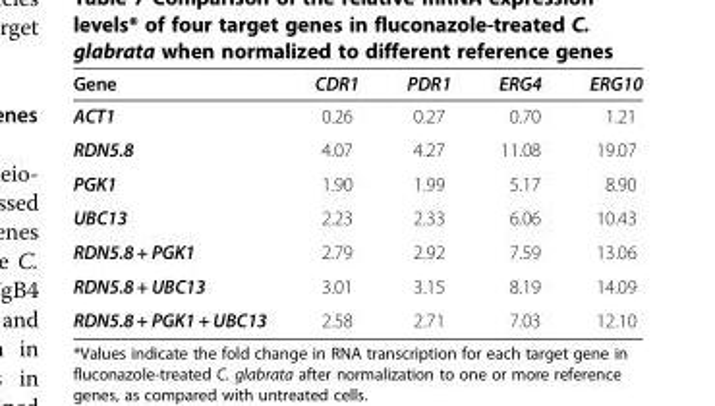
<table><thead><tr><td>Gene</td><td>CDR1</td><td>PDR1</td><td>ERG4</td><td>ERG10</td></tr></thead><tbody><tr><td>ACT1</td><td>0.26</td><td>0.27</td><td>0.70</td><td>1.21</td></tr><tr><td>RDN5.8</td><td>4.07</td><td>4.27</td><td>11.08</td><td>19.07</td></tr><tr><td>PGK1</td><td>1.90</td><td>1.99</td><td>5.17</td><td>8.90</td></tr><tr><td>UBC13</td><td>2.23</td><td>2.33</td><td>6.06</td><td>10.43</td></tr><tr><td>RDN5.8 + PGK1</td><td>2.79</td><td>2.92</td><td>7.59</td><td>13.06</td></tr><tr><td>RDN5.8 + UBC13</td><td>3.01</td><td>3.15</td><td>8.19</td><td>14.09</td></tr><tr><td>RDN5.8 + PGK1 + UBC13</td><td>2.58</td><td>2.71</td><td>7.03</td><td>12.10</td></tr></tbody></table>